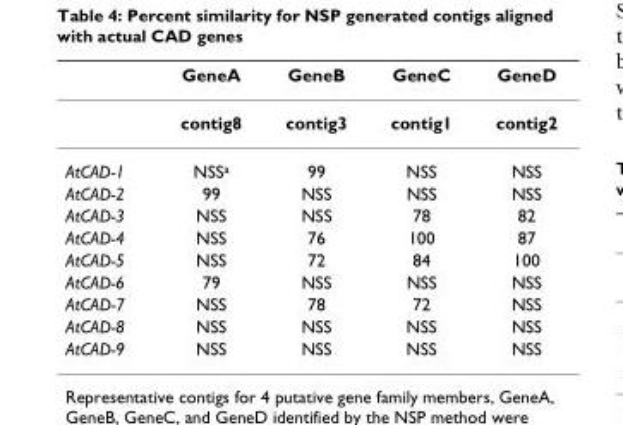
<table><thead><tr><td></td><td>GeneA</td><td>GeneB</td><td>GeneC</td><td>GeneD</td></tr></thead><tbody><tr><td></td><td>contig8</td><td>contig3</td><td>contig1</td><td>contig2</td></tr><tr><td>AtCAD-1</td><td>NSS<sup>a</sup></td><td>99</td><td>NSS</td><td>NSS</td></tr><tr><td>AtCAD-2</td><td>99</td><td>NSS</td><td>NSS</td><td>NSS</td></tr><tr><td>AtCAD-3</td><td>NSS</td><td>NSS</td><td>78</td><td>82</td></tr><tr><td>AtCAD-4</td><td>NSS</td><td>76</td><td>100</td><td>87</td></tr><tr><td>AtCAD-5</td><td>NSS</td><td>72</td><td>84</td><td>100</td></tr><tr><td>AtCAD-6</td><td>79</td><td>NSS</td><td>NSS</td><td>NSS</td></tr><tr><td>AtCAD-7</td><td>NSS</td><td>78</td><td>72</td><td>NSS</td></tr><tr><td>AtCAD-8</td><td>NSS</td><td>NSS</td><td>NSS</td><td>NSS</td></tr><tr><td>AtCAD-9</td><td>NSS</td><td>NSS</td><td>NSS</td><td>NSS</td></tr></tbody></table>